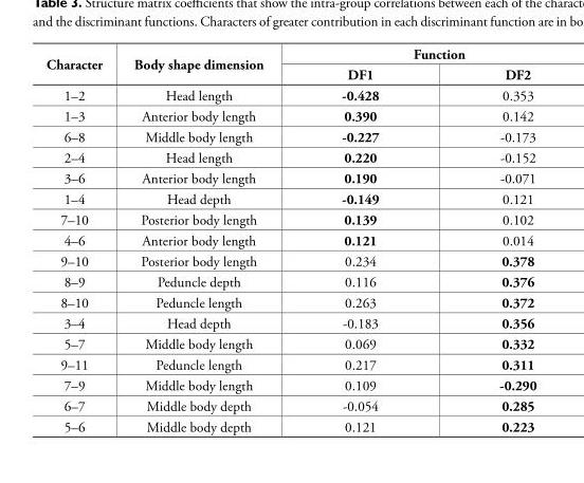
<table><thead><tr><td rowspan="2">Character</td><td rowspan="2">Body shape dimension</td><td colspan="2">Function</td></tr><tr><td>DF1</td><td>DF2</td></tr></thead><tbody><tr><td>1–2</td><td>Head length</td><td>-0.428</td><td>0.353</td></tr><tr><td>1–3</td><td>Anterior body length</td><td>0.390</td><td>0.142</td></tr><tr><td>6–8</td><td>Middle body length</td><td>-0.227</td><td>-0.173</td></tr><tr><td>2–4</td><td>Head length</td><td>0.220</td><td>-0.152</td></tr><tr><td>3–6</td><td>Anterior body length</td><td>0.190</td><td>-0.071</td></tr><tr><td>1–4</td><td>Head depth</td><td>-0.149</td><td>0.121</td></tr><tr><td>7–10</td><td>Posterior body length</td><td>0.139</td><td>0.102</td></tr><tr><td>4–6</td><td>Anterior body length</td><td>0.121</td><td>0.014</td></tr><tr><td>9–10</td><td>Posterior body length</td><td>0.234</td><td>0.378</td></tr><tr><td>8–9</td><td>Peduncle depth</td><td>0.116</td><td>0.376</td></tr><tr><td>8–10</td><td>Peduncle length</td><td>0.263</td><td>0.372</td></tr><tr><td>3–4</td><td>Head depth</td><td>-0.183</td><td>0.356</td></tr><tr><td>5–7</td><td>Middle body length</td><td>0.069</td><td>0.332</td></tr><tr><td>9–11</td><td>Peduncle length</td><td>0.217</td><td>0.311</td></tr><tr><td>7–9</td><td>Middle body length</td><td>0.109</td><td>-0.290</td></tr><tr><td>6–7</td><td>Middle body depth</td><td>-0.054</td><td>0.285</td></tr><tr><td>5–6</td><td>Middle body depth</td><td>0.121</td><td>0.223</td></tr></tbody></table>